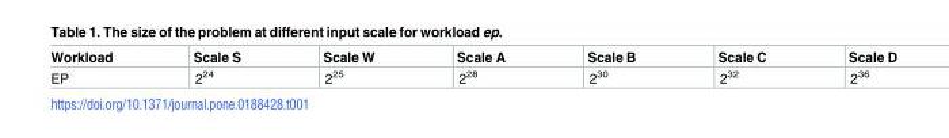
<table><thead><tr><td>Workload</td><td>Scale S</td><td>Scale W</td><td>Scale A</td><td>Scale B</td><td>Scale C</td><td>Scale D</td></tr></thead><tbody><tr><td>EP</td><td>2<sup>24</sup></td><td>2<sup>25</sup></td><td>2<sup>28</sup></td><td>2<sup>30</sup></td><td>2<sup>32</sup></td><td>2<sup>36</sup></td></tr></tbody></table>